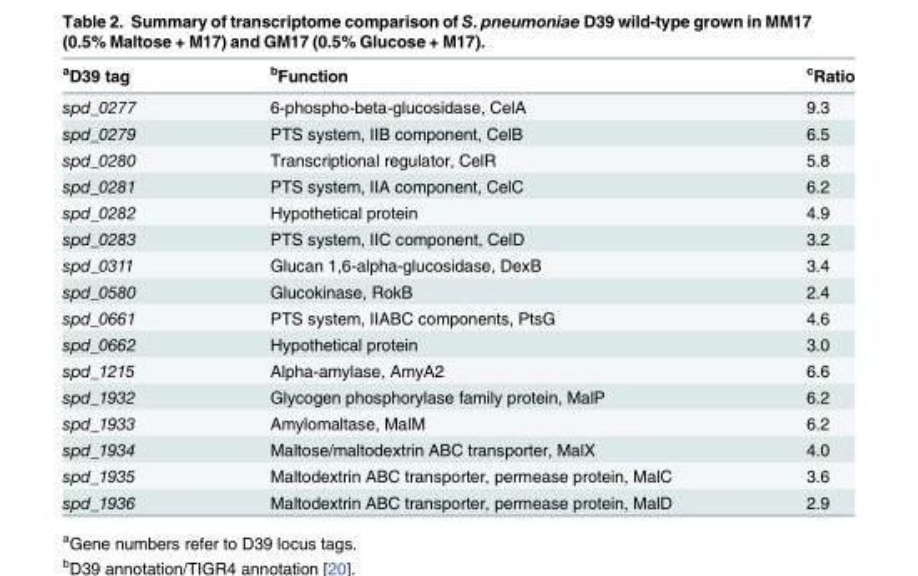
<table><thead><tr><td><sup>a</sup>D39 tag</td><td><sup>b</sup>Function</td><td><sup>c</sup>Ratio</td></tr></thead><tbody><tr><td>spd_0277</td><td>6-phospho-beta-glucosidase, CelA</td><td>9.3</td></tr><tr><td>spd_0279</td><td>PTS system, IIB component, CelB</td><td>6.5</td></tr><tr><td>spd_0280</td><td>Transcriptional regulator, CelR</td><td>5.8</td></tr><tr><td>spd_0281</td><td>PTS system, IIA component, CelC</td><td>6.2</td></tr><tr><td>spd_0282</td><td>Hypothetical protein</td><td>4.9</td></tr><tr><td>spd_0283</td><td>PTS system, IIC component, CelD</td><td>3.2</td></tr><tr><td>spd_0311</td><td>Glucan 1,6-alpha-glucosidase, DexB</td><td>3.4</td></tr><tr><td>spd_0580</td><td>Glucokinase, RokB</td><td>2.4</td></tr><tr><td>spd_0661</td><td>PTS system, IIABC components, PtsG</td><td>4.6</td></tr><tr><td>spd_0662</td><td>Hypothetical protein</td><td>3.0</td></tr><tr><td>spd_1215</td><td>Alpha-amylase, AmyA2</td><td>6.6</td></tr><tr><td>spd_1932</td><td>Glycogen phosphorylase family protein, MalP</td><td>6.2</td></tr><tr><td>spd_1933</td><td>Amylomaltase, MalM</td><td>6.2</td></tr><tr><td>spd_1934</td><td>Maltose/maltodextrin ABC transporter, MalX</td><td>4.0</td></tr><tr><td>spd_1935</td><td>Maltodextrin ABC transporter, permease protein, MalC</td><td>3.6</td></tr><tr><td>spd_1936</td><td>Maltodextrin ABC transporter, permease protein, MalD</td><td>2.9</td></tr></tbody></table>